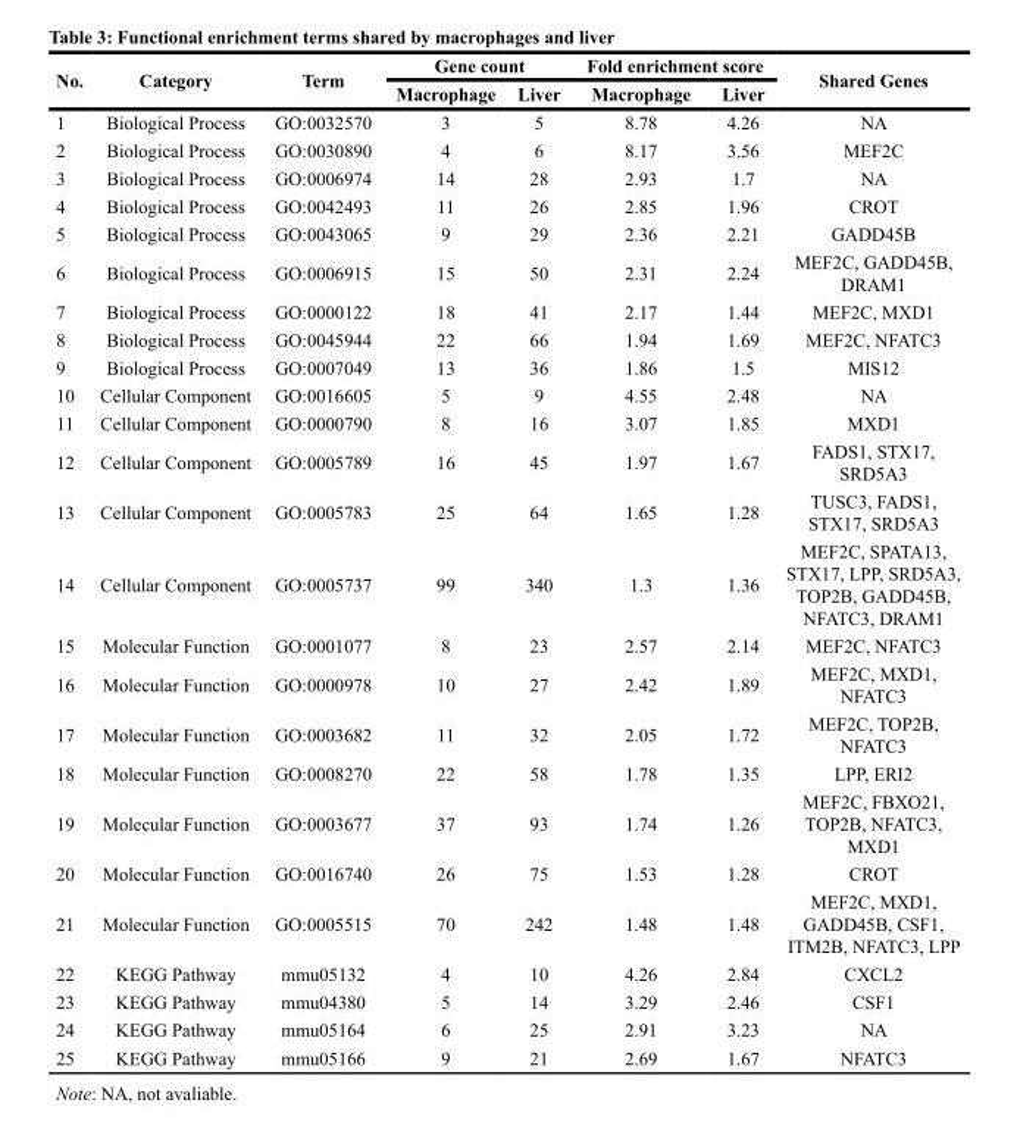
<table><thead><tr><td rowspan="2">No.</td><td rowspan="2">Category</td><td rowspan="2">Term</td><td colspan="2">Gene count</td><td colspan="2">Fold enrichment score</td><td rowspan="2">Shared Genes</td></tr><tr><td>Macrophage</td><td>Liver</td><td>Macrophage</td><td>Liver</td></tr></thead><tbody><tr><td>1</td><td>Biological Process</td><td>GO:0032570</td><td>3</td><td>5</td><td>8.78</td><td>4.26</td><td>NA</td></tr><tr><td>2</td><td>Biological Process</td><td>GO:0030890</td><td>4</td><td>6</td><td>8.17</td><td>3.56</td><td>MEF2C</td></tr><tr><td>3</td><td>Biological Process</td><td>GO:0006974</td><td>14</td><td>28</td><td>2.93</td><td>1.7</td><td>NA</td></tr><tr><td>4</td><td>Biological Process</td><td>GO:0042493</td><td>11</td><td>26</td><td>2.85</td><td>1.96</td><td>CROT</td></tr><tr><td>5</td><td>Biological Process</td><td>GO:0043065</td><td>9</td><td>29</td><td>2.36</td><td>2.21</td><td>GADD45B</td></tr><tr><td>6</td><td>Biological Process</td><td>GO:0006915</td><td>15</td><td>50</td><td>2.31</td><td>2.24</td><td>MEF2C, GADD45B, DRAM1</td></tr><tr><td>7</td><td>Biological Process</td><td>GO:0000122</td><td>18</td><td>41</td><td>2.17</td><td>1.44</td><td>MEF2C, MXD1</td></tr><tr><td>8</td><td>Biological Process</td><td>GO:0045944</td><td>22</td><td>66</td><td>1.94</td><td>1.69</td><td>MEF2C, NFATC3</td></tr><tr><td>9</td><td>Biological Process</td><td>GO:0007049</td><td>13</td><td>36</td><td>1.86</td><td>1.5</td><td>MIS12</td></tr><tr><td>10</td><td>Cellular Component</td><td>GO:0016605</td><td>5</td><td>9</td><td>4.55</td><td>2.48</td><td>NA</td></tr><tr><td>11</td><td>Cellular Component</td><td>GO:0000790</td><td>8</td><td>16</td><td>3.07</td><td>1.85</td><td>MXD1</td></tr><tr><td>12</td><td>Cellular Component</td><td>GO:0005789</td><td>16</td><td>45</td><td>1.97</td><td>1.67</td><td>FADS1, STX17, SRD5A3</td></tr><tr><td>13</td><td>Cellular Component</td><td>GO:0005783</td><td>25</td><td>64</td><td>1.65</td><td>1.28</td><td>TUSC3, FADS1, STX17, SRD5A3</td></tr><tr><td>14</td><td>Cellular Component</td><td>GO:0005737</td><td>99</td><td>340</td><td>1.3</td><td>1.36</td><td>MEF2C, SPATA13, STX17, LPP, SRD5A3, TOP2B, GADD45B, NFATC3, DRAM1</td></tr><tr><td>15</td><td>Molecular Function</td><td>GO:0001077</td><td>8</td><td>23</td><td>2.57</td><td>2.14</td><td>MEF2C, NFATC3</td></tr><tr><td>16</td><td>Molecular Function</td><td>GO:0000978</td><td>10</td><td>27</td><td>2.42</td><td>1.89</td><td>MEF2C, MXD1, NFATC3</td></tr><tr><td>17</td><td>Molecular Function</td><td>GO:0003682</td><td>11</td><td>32</td><td>2.05</td><td>1.72</td><td>MEF2C, TOP2B, NFATC3</td></tr><tr><td>18</td><td>Molecular Function</td><td>GO:0008270</td><td>22</td><td>58</td><td>1.78</td><td>1.35</td><td>LPP, ERI2</td></tr><tr><td>19</td><td>Molecular Function</td><td>GO:0003677</td><td>37</td><td>93</td><td>1.74</td><td>1.26</td><td>MEF2C, FBXO21, TOP2B, NFATC3, MXD1</td></tr><tr><td>20</td><td>Molecular Function</td><td>GO:0016740</td><td>26</td><td>75</td><td>1.53</td><td>1.28</td><td>CROT</td></tr><tr><td>21</td><td>Molecular Function</td><td>GO:0005515</td><td>70</td><td>242</td><td>1.48</td><td>1.48</td><td>MEF2C, MXD1, GADD45B, CSF1, ITM2B, NFATC3, LPP</td></tr><tr><td>22</td><td>KEGG Pathway</td><td>mmu05132</td><td>4</td><td>10</td><td>4.26</td><td>2.84</td><td>CXCL2</td></tr><tr><td>23</td><td>KEGG Pathway</td><td>mmu04380</td><td>5</td><td>14</td><td>3.29</td><td>2.46</td><td>CSF1</td></tr><tr><td>24</td><td>KEGG Pathway</td><td>mmu05164</td><td>6</td><td>25</td><td>2.91</td><td>3.23</td><td>NA</td></tr><tr><td>25</td><td>KEGG Pathway</td><td>mmu05166</td><td>9</td><td>21</td><td>2.69</td><td>1.67</td><td>NFATC3</td></tr></tbody></table>